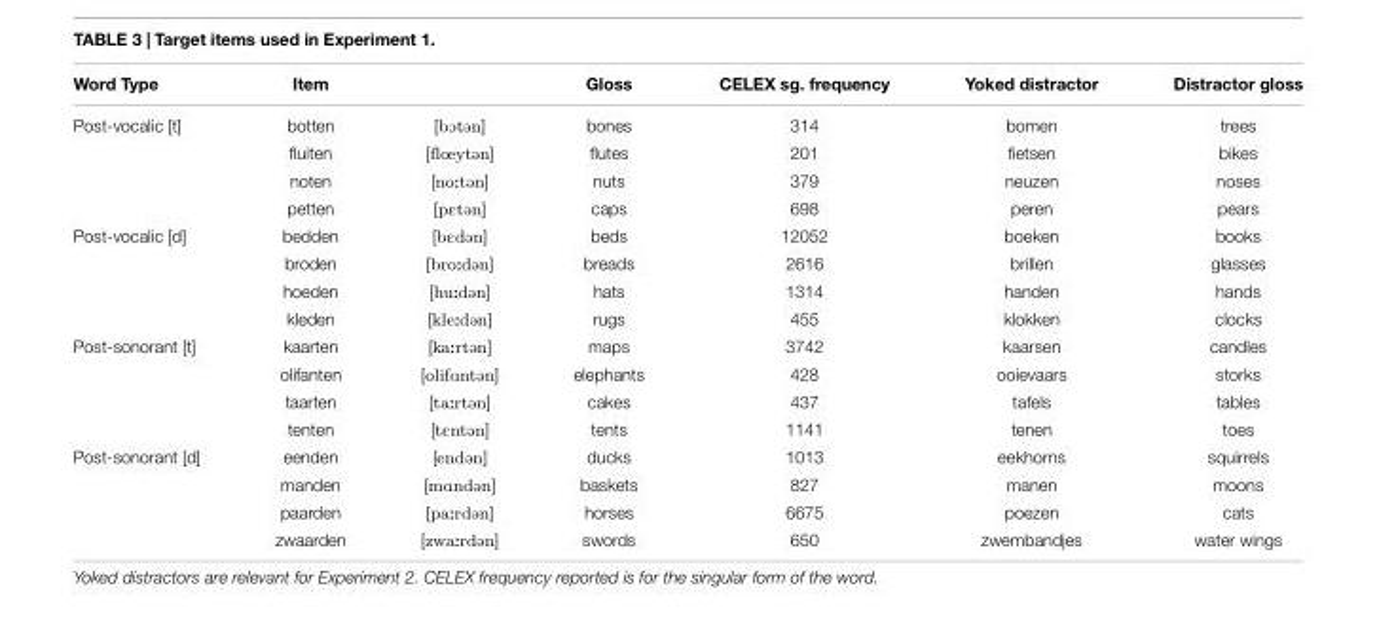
<table><thead><tr><td>Word Type</td><td>Item</td><td></td><td>Gloss</td><td>CELEX sg. frequency</td><td>Yoked distractor</td><td>Distractor gloss</td></tr></thead><tbody><tr><td rowspan="4">Post-vocalic [t]</td><td>botten</td><td>[bOt@n]</td><td>bones</td><td>314</td><td>bomen</td><td>trees</td></tr><tr><td>fluiten</td><td>[floeyt@n]</td><td>flutes</td><td>201</td><td>fietsen</td><td>bikes</td></tr><tr><td>noten</td><td>[no:t@n]</td><td>nuts</td><td>379</td><td>neuzen</td><td>noses</td></tr><tr><td>petten</td><td>[pEt@n]</td><td>caps</td><td>698</td><td>peren</td><td>pears</td></tr><tr><td rowspan="4">Post-vocalic [d]</td><td>bedden</td><td>[bEd@n]</td><td>beds</td><td>12052</td><td>boeken</td><td>books</td></tr><tr><td>broden</td><td>[bro:d@n]</td><td>breads</td><td>2616</td><td>brillen</td><td>glasses</td></tr><tr><td>hoeden</td><td>[hu:d@n]</td><td>hats</td><td>1314</td><td>handen</td><td>hands</td></tr><tr><td>kleden</td><td>[kle:d@n]</td><td>rugs</td><td>455</td><td>klokken</td><td>clocks</td></tr><tr><td rowspan="4">Post-sonorant [t]</td><td>kaarten</td><td>[ka:rt@n]</td><td>maps</td><td>3742</td><td>kaarsen</td><td>candles</td></tr><tr><td>olifanten</td><td>[olifAnt@n]</td><td>elephants</td><td>428</td><td>ooievaars</td><td>storks</td></tr><tr><td>taarten</td><td>[ta:rt@n]</td><td>cakes</td><td>437</td><td>tafels</td><td>tables</td></tr><tr><td>tenten</td><td>[tEnt@n]</td><td>tents</td><td>1141</td><td>tenen</td><td>toes</td></tr><tr><td rowspan="4">Post-sonorant [d]</td><td>eenden</td><td>[end@n]</td><td>ducks</td><td>1013</td><td>eekhorns</td><td>squirrels</td></tr><tr><td>manden</td><td>[mAnd@n]</td><td>baskets</td><td>827</td><td>manen</td><td>moons</td></tr><tr><td>paarden</td><td>[pa:rd@n]</td><td>horses</td><td>6675</td><td>poezen</td><td>cats</td></tr><tr><td>zwaarden</td><td>[zwa:rd@n]</td><td>swords</td><td>650</td><td>zwembandjes</td><td>water wings</td></tr></tbody></table>